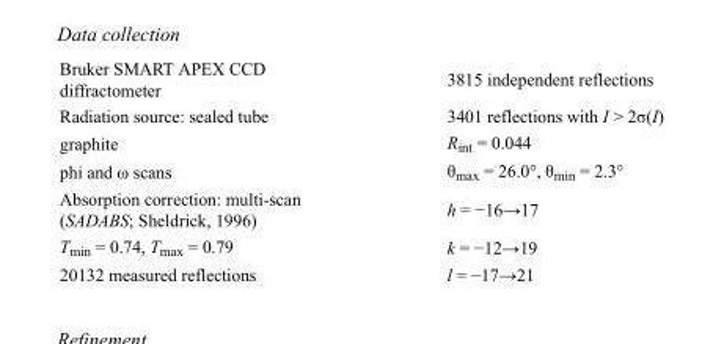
<table><tbody><tr><td>Bruker SMART APEX CCD diffractometer</td><td>3815 independent reflections</td></tr><tr><td>Radiation source: sealed tube</td><td>3401 reflections with I &gt; 2σ(I)</td></tr><tr><td>graphite</td><td>R<sub>int</sub> = 0.044</td></tr><tr><td>phi and ω scans</td><td>θ<sub>max</sub> = 26.0°, θ<sub>min</sub> = 2.3°</td></tr><tr><td>Absorption correction: multi-scan (SADABS; Sheldrick, 1996)</td><td>h = −16→17</td></tr><tr><td>T<sub>min</sub> = 0.74, T<sub>max</sub> = 0.79</td><td>k = −12→19</td></tr><tr><td>20132 measured reflections</td><td>l = −17→21</td></tr></tbody></table>